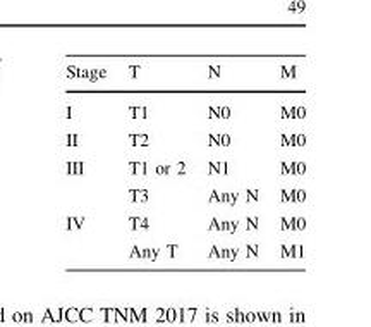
<table><thead><tr><td>Stage</td><td>T</td><td>N</td><td>M</td></tr></thead><tbody><tr><td>I</td><td>T1</td><td>N0</td><td>M0</td></tr><tr><td>II</td><td>T2</td><td>N0</td><td>M0</td></tr><tr><td rowspan="2">III</td><td>T1 or 2</td><td>N1</td><td>M0</td></tr><tr><td>T3</td><td>Any N</td><td>M0</td></tr><tr><td rowspan="2">IV</td><td>T4</td><td>Any N</td><td>M0</td></tr><tr><td>Any T</td><td>Any N</td><td>M1</td></tr></tbody></table>